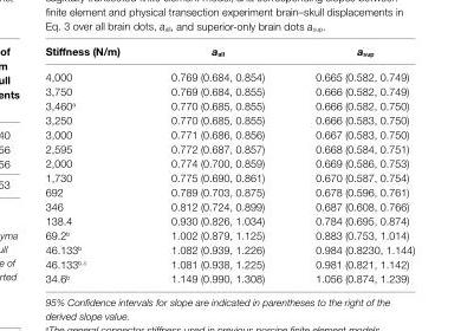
<table><thead><tr><td>stiffness (n/m)</td><td>a<sub>all</sub></td><td>a<sub>sup</sub></td></tr></thead><tbody><tr><td>4,000</td><td>0.769 (0.684, 0.854)</td><td>0.665 (0.582, 0.749)</td></tr><tr><td>3,750</td><td>0.769 (0.684, 0.855)</td><td>0.666 (0.582, 0.749)</td></tr><tr><td>3,460<sup>a</sup></td><td>0.770 (0.685, 0.855)</td><td>0.666 (0.582, 0.750)</td></tr><tr><td>3,250</td><td>0.770 (0.685, 0.855)</td><td>0.666 (0.583, 0.750)</td></tr><tr><td>3,000</td><td>0.771 (0.686, 0.856)</td><td>0.667 (0.583, 0.750)</td></tr><tr><td>2,595</td><td>0.772 (0.687, 0.857)</td><td>0.668 (0.584, 0.751)</td></tr><tr><td>2,000</td><td>0.774 (0.700, 0.859)</td><td>0.669 (0.586, 0.753)</td></tr><tr><td>1,730</td><td>0.775 (0.690, 0.861)</td><td>0.670 (0.587, 0.754)</td></tr><tr><td>692</td><td>0.789 (0.703, 0.875)</td><td>0.678 (0.596, 0.761)</td></tr><tr><td>346</td><td>0.812 (0.724, 0.899)</td><td>0.687 (0.608, 0.766)</td></tr><tr><td>138.4</td><td>0.930 (0.826, 1.034)</td><td>0.784 (0.695, 0.874)</td></tr><tr><td>69.2<sup>b</sup></td><td>1.002 (0.879, 1.125)</td><td>0.883 (0.753, 1.014)</td></tr><tr><td>46.133<sup>b</sup></td><td>1.082 (0.939, 1.226)</td><td>0.984 (0.8230, 1.144)</td></tr><tr><td>46.133<sup>b,c</sup></td><td>1.081 (0.938, 1.225)</td><td>0.981 (0.821, 1.142)</td></tr><tr><td>34.6<sup>b</sup></td><td>1.149 (0.990, 1.308)</td><td>1.056 (0.874, 1.239)</td></tr></tbody></table>